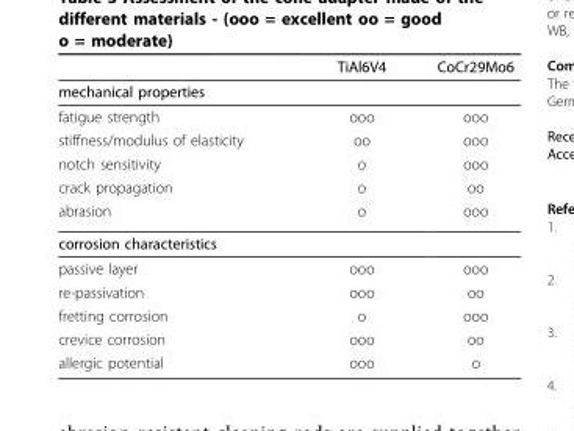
<table><thead><tr><td></td><td>TiAl6V4</td><td>CoCr29Mo6</td></tr></thead><tbody><tr><td colspan="3">mechanical properties</td></tr><tr><td>fatigue strength</td><td>ooo</td><td>ooo</td></tr><tr><td>stiffness/modulus of elasticity</td><td>oo</td><td>ooo</td></tr><tr><td>notch sensitivity</td><td>o</td><td>ooo</td></tr><tr><td>crack propagation</td><td>o</td><td>oo</td></tr><tr><td>abrasion</td><td>o</td><td>ooo</td></tr><tr><td colspan="3">corrosion characteristics</td></tr><tr><td>passive layer</td><td>ooo</td><td>ooo</td></tr><tr><td>re-passivation</td><td>ooo</td><td>oo</td></tr><tr><td>fretting corrosion</td><td>o</td><td>ooo</td></tr><tr><td>crevice corrosion</td><td>ooo</td><td>oo</td></tr><tr><td>allergic potential</td><td>ooo</td><td>o</td></tr></tbody></table>